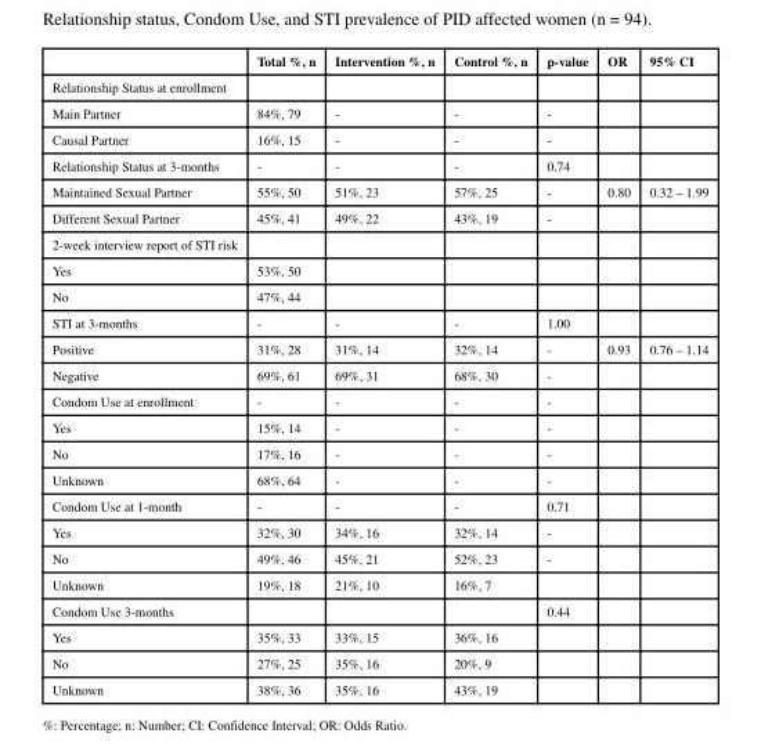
<table><thead><tr><td></td><td>Total %, n</td><td>Intervention %, n</td><td>Control %, n</td><td>p-value</td><td>OR</td><td>95% CI</td></tr></thead><tbody><tr><td colspan="7">Relationship Status at enrollment</td></tr><tr><td>Main Partner</td><td>84%, 79</td><td>-</td><td>-</td><td>-</td><td></td><td></td></tr><tr><td>Causal Partner</td><td>16%, 15</td><td>-</td><td>-</td><td>-</td><td></td><td></td></tr><tr><td>Relationship Status at 3-months</td><td>-</td><td>-</td><td>-</td><td>0.74</td><td></td><td></td></tr><tr><td>Maintained Sexual Partner</td><td>55%, 50</td><td>51%, 23</td><td>57%, 25</td><td>-</td><td>0.80</td><td>0.32 – 1.99</td></tr><tr><td>Different Sexual Partner</td><td>45%, 41</td><td>49%, 22</td><td>43%, 19</td><td>-</td><td></td><td></td></tr><tr><td colspan="7">2-week interview report of STI risk</td></tr><tr><td>Yes</td><td>53%, 50</td><td></td><td></td><td></td><td></td><td></td></tr><tr><td>No</td><td>47%, 44</td><td></td><td></td><td></td><td></td><td></td></tr><tr><td>STI at 3-months</td><td>-</td><td>-</td><td>-</td><td>1.00</td><td></td><td></td></tr><tr><td>Positive</td><td>31%, 28</td><td>31%, 14</td><td>32%, 14</td><td>-</td><td>0.93</td><td>0.76 – 1.14</td></tr><tr><td>Negative</td><td>69%, 61</td><td>69%, 31</td><td>68%, 30</td><td>-</td><td></td><td></td></tr><tr><td>Condom Use at enrollment</td><td>-</td><td>-</td><td>-</td><td>-</td><td></td><td></td></tr><tr><td>Yes</td><td>15%, 14</td><td>-</td><td>-</td><td>-</td><td></td><td></td></tr><tr><td>No</td><td>17%, 16</td><td>-</td><td>-</td><td>-</td><td></td><td></td></tr><tr><td>Unknown</td><td>68%, 64</td><td>-</td><td>-</td><td>-</td><td></td><td></td></tr><tr><td>Condom Use at 1-month</td><td>-</td><td>-</td><td>-</td><td>0.71</td><td></td><td></td></tr><tr><td>Yes</td><td>32%, 30</td><td>34%, 16</td><td>32%, 14</td><td>-</td><td></td><td></td></tr><tr><td>No</td><td>49%, 46</td><td>45%, 21</td><td>52%, 23</td><td>-</td><td></td><td></td></tr><tr><td>Unknown</td><td>19%, 18</td><td>21%, 10</td><td>16%, 7</td><td></td><td></td><td></td></tr><tr><td>Condom Use 3-months</td><td></td><td></td><td></td><td>0.44</td><td></td><td></td></tr><tr><td>Yes</td><td>35%, 33</td><td>33%, 15</td><td>36%, 16</td><td></td><td></td><td></td></tr><tr><td>No</td><td>27%, 25</td><td>35%, 16</td><td>20%, 9</td><td></td><td></td><td></td></tr><tr><td>Unknown</td><td>38%, 36</td><td>35%, 16</td><td>43%, 19</td><td></td><td></td><td></td></tr></tbody></table>